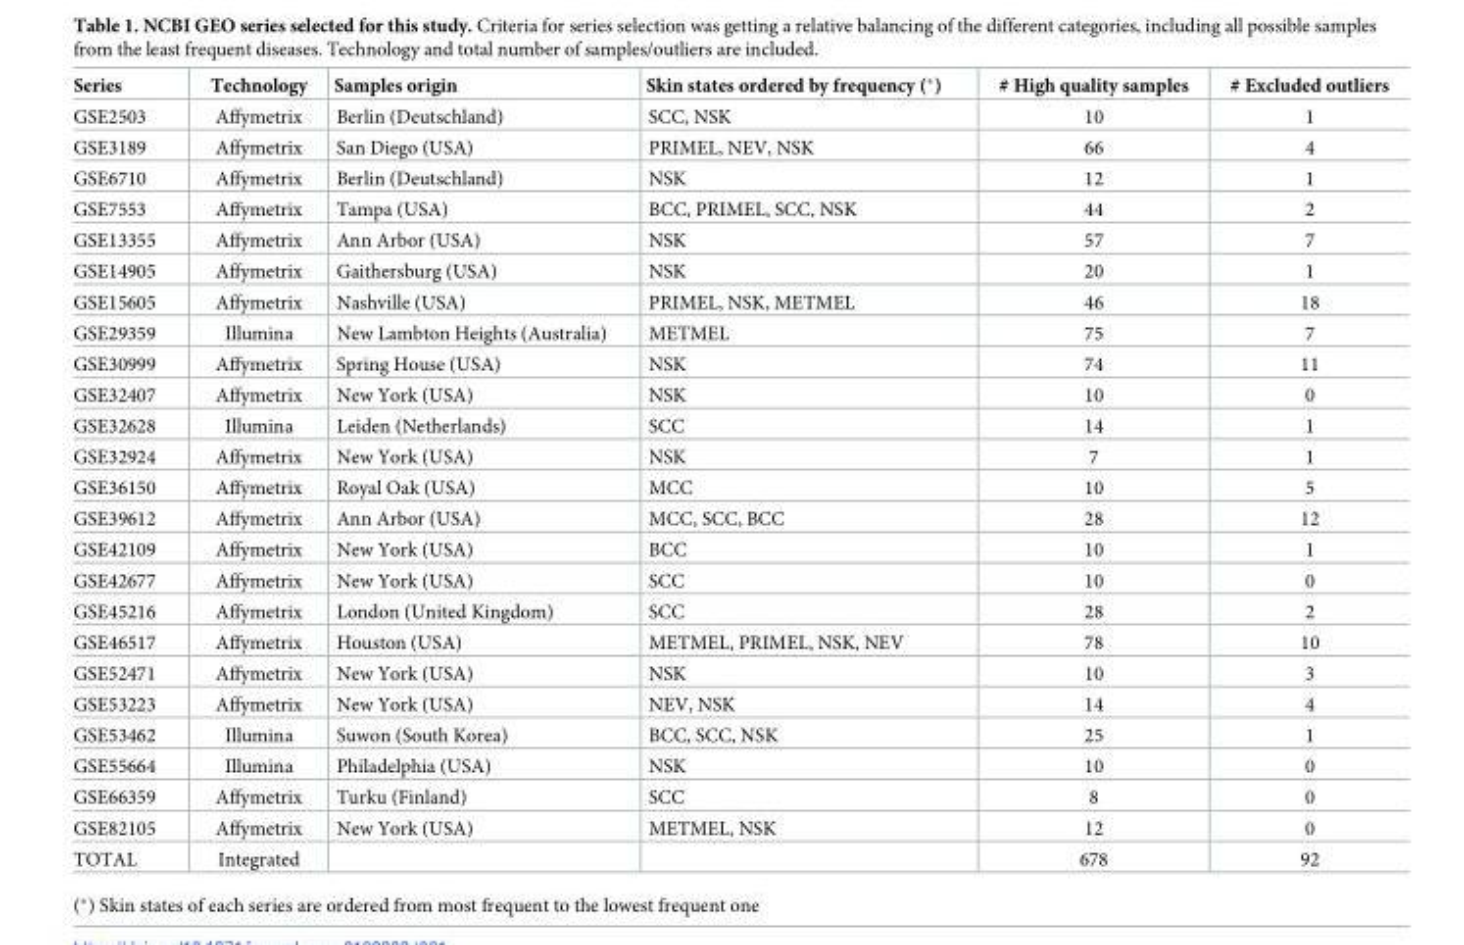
<table><thead><tr><td>Series</td><td>Technology</td><td>Samples origin</td><td>Skin states ordered by frequency (*)</td><td># High quality samples</td><td># Excluded outliers</td></tr></thead><tbody><tr><td>GSE2503</td><td>Affymetrix</td><td>Berlin (Deutschland)</td><td>SCC, NSK</td><td>10</td><td>1</td></tr><tr><td>GSE3189</td><td>Affymetrix</td><td>San Diego (USA)</td><td>PRIMEL, NEV, NSK</td><td>66</td><td>4</td></tr><tr><td>GSE6710</td><td>Affymetrix</td><td>Berlin (Deutschland)</td><td>NSK</td><td>12</td><td>1</td></tr><tr><td>GSE7553</td><td>Affymetrix</td><td>Tampa (USA)</td><td>BCC, PRIMEL, SCC, NSK</td><td>44</td><td>2</td></tr><tr><td>GSE13355</td><td>Affymetrix</td><td>Ann Arbor (USA)</td><td>NSK</td><td>57</td><td>7</td></tr><tr><td>GSE14905</td><td>Affymetrix</td><td>Gaithersburg (USA)</td><td>NSK</td><td>20</td><td>1</td></tr><tr><td>GSE15605</td><td>Affymetrix</td><td>Nashville (USA)</td><td>PRIMEL, NSK, METMEL</td><td>46</td><td>18</td></tr><tr><td>GSE29359</td><td>Illumina</td><td>New Lambton Heights (Australia)</td><td>METMEL</td><td>75</td><td>7</td></tr><tr><td>GSE30999</td><td>Affymetrix</td><td>Spring House (USA)</td><td>NSK</td><td>74</td><td>11</td></tr><tr><td>GSE32407</td><td>Affymetrix</td><td>New York (USA)</td><td>NSK</td><td>10</td><td>0</td></tr><tr><td>GSE32628</td><td>Illumina</td><td>Leiden (Netherlands)</td><td>SCC</td><td>14</td><td>1</td></tr><tr><td>GSE32924</td><td>Affymetrix</td><td>New York (USA)</td><td>NSK</td><td>7</td><td>1</td></tr><tr><td>GSE36150</td><td>Affymetrix</td><td>Royal Oak (USA)</td><td>MCC</td><td>10</td><td>5</td></tr><tr><td>GSE39612</td><td>Affymetrix</td><td>Ann Arbor (USA)</td><td>MCC, SCC, BCC</td><td>28</td><td>12</td></tr><tr><td>GSE42109</td><td>Affymetrix</td><td>New York (USA)</td><td>BCC</td><td>10</td><td>1</td></tr><tr><td>GSE42677</td><td>Affymetrix</td><td>New York (USA)</td><td>SCC</td><td>10</td><td>0</td></tr><tr><td>GSE45216</td><td>Affymetrix</td><td>London (United Kingdom)</td><td>SCC</td><td>28</td><td>2</td></tr><tr><td>GSE46517</td><td>Affymetrix</td><td>Houston (USA)</td><td>METMEL, PRIMEL, NSK, NEV</td><td>78</td><td>10</td></tr><tr><td>GSE52471</td><td>Affymetrix</td><td>New York (USA)</td><td>NSK</td><td>10</td><td>3</td></tr><tr><td>GSE53223</td><td>Affymetrix</td><td>New York (USA)</td><td>NEV, NSK</td><td>14</td><td>4</td></tr><tr><td>GSE53462</td><td>Illumina</td><td>Suwon (South Korea)</td><td>BCC, SCC, NSK</td><td>25</td><td>1</td></tr><tr><td>GSE55664</td><td>Illumina</td><td>Philadelphia (USA)</td><td>NSK</td><td>10</td><td>0</td></tr><tr><td>GSE66359</td><td>Affymetrix</td><td>Turku (Finland)</td><td>SCC</td><td>8</td><td>0</td></tr><tr><td>GSE82105</td><td>Affymetrix</td><td>New York (USA)</td><td>METMEL, NSK</td><td>12</td><td>0</td></tr><tr><td>TOTAL</td><td>Integrated</td><td></td><td></td><td>678</td><td>92</td></tr></tbody></table>